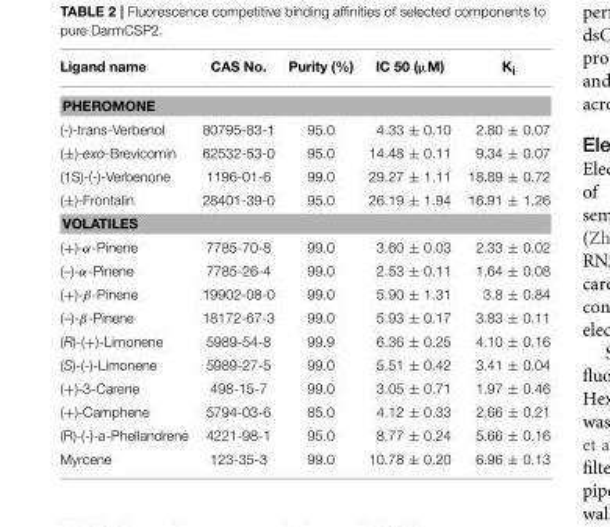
<table><thead><tr><td>Ligand name</td><td>CAS No.</td><td>Purity (%)</td><td>IC 50 (µM)</td><td>K<sub>i</sub></td></tr></thead><tbody><tr><td colspan="5">PHEROMONE</td></tr><tr><td>(-)-trans-Verbenol</td><td>80795-83-1</td><td>95.0</td><td>4.33 ± 0.10</td><td>2.80 ± 0.07</td></tr><tr><td>(±)-exo-Brevicomin</td><td>62532-53-0</td><td>95.0</td><td>14.48 ± 0.11</td><td>9.34 ± 0.07</td></tr><tr><td>(1S)-(-)-Verbenone</td><td>1196-01-6</td><td>99.0</td><td>29.27 ± 1.11</td><td>18.89 ± 0.72</td></tr><tr><td>(±)-Frontalin</td><td>28401-39-0</td><td>95.0</td><td>26.19 ± 1.94</td><td>16.91 ± 1.26</td></tr><tr><td colspan="5">VOLATILES</td></tr><tr><td>(+)-α-Pinene</td><td>7785-70-8</td><td>99.0</td><td>3.60 ± 0.03</td><td>2.33 ± 0.02</td></tr><tr><td>(–)-α-Pinene</td><td>7785-26-4</td><td>99.0</td><td>2.53 ± 0.11</td><td>1.64 ± 0.08</td></tr><tr><td>(+)-β-Pinene</td><td>19902-08-0</td><td>99.0</td><td>5.90 ± 1.31</td><td>3.8 ± 0.84</td></tr><tr><td>(–)-β-Pinene</td><td>18172-67-3</td><td>99.0</td><td>5.93 ± 0.17</td><td>3.83 ± 0.11</td></tr><tr><td>(R)-(+)-Limonene</td><td>5989-54-8</td><td>99.9</td><td>6.36 ± 0.25</td><td>4.10 ± 0.16</td></tr><tr><td>(S)-(-)-Limonene</td><td>5989-27-5</td><td>99.0</td><td>5.51 ± 0.42</td><td>3.41 ± 0.04</td></tr><tr><td>(+)-3-Carene</td><td>498-15-7</td><td>99.0</td><td>3.05 ± 0.71</td><td>1.97 ± 0.46</td></tr><tr><td>(+)-Camphene</td><td>5794-03-6</td><td>85.0</td><td>4.12 ± 0.33</td><td>2.66 ± 0.21</td></tr><tr><td>(R)-(-)-a-Phellandrene</td><td>4221-98-1</td><td>95.0</td><td>8.77 ± 0.24</td><td>5.66 ± 0.16</td></tr><tr><td>Myrcene</td><td>123-35-3</td><td>99.0</td><td>10.78 ± 0.20</td><td>6.96 ± 0.13</td></tr></tbody></table>